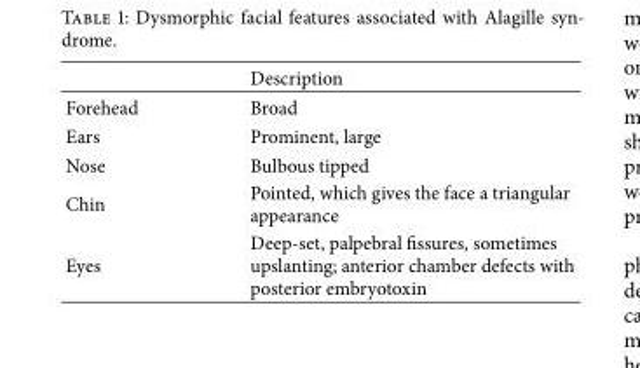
<table><thead><tr><td></td><td>Description</td></tr></thead><tbody><tr><td>Forehead</td><td>Broad</td></tr><tr><td>Ears</td><td>Prominent, large</td></tr><tr><td>Nose</td><td>Bulbous tipped</td></tr><tr><td>Chin</td><td>Pointed, which gives the face a triangular appearance</td></tr><tr><td>Eyes</td><td>Deep-set, palpebral fissures, sometimes upslanting; anterior chamber defects with posterior embryotoxin</td></tr></tbody></table>